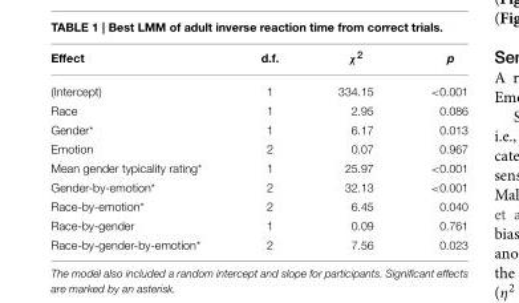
<table><thead><tr><td>Effect</td><td>d.f.</td><td>χ<sup>2</sup></td><td>p</td></tr></thead><tbody><tr><td>(Intercept)</td><td>1</td><td>334.15</td><td>&lt;0.001</td></tr><tr><td>Race</td><td>1</td><td>2.95</td><td>0.086</td></tr><tr><td>Gender*</td><td>1</td><td>6.17</td><td>0.013</td></tr><tr><td>Emotion</td><td>2</td><td>0.07</td><td>0.967</td></tr><tr><td>Mean gender typicality rating*</td><td>1</td><td>25.97</td><td>&lt;0.001</td></tr><tr><td>Gender-by-emotion*</td><td>2</td><td>32.13</td><td>&lt;0.001</td></tr><tr><td>Race-by-emotion*</td><td>2</td><td>6.45</td><td>0.040</td></tr><tr><td>Race-by-gender</td><td>1</td><td>0.09</td><td>0.761</td></tr><tr><td>Race-by-gender-by-emotion*</td><td>2</td><td>7.56</td><td>0.023</td></tr></tbody></table>